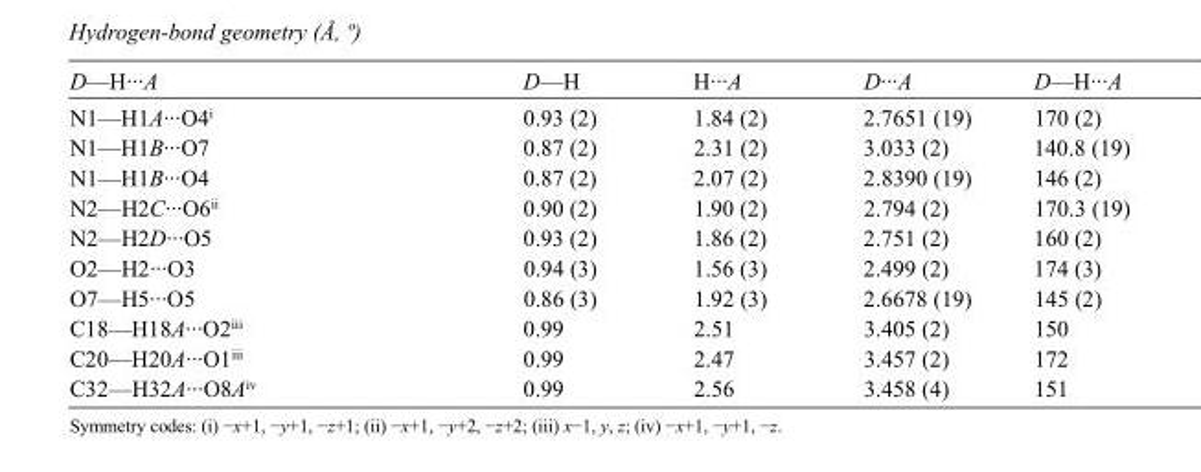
<table><tbody><tr><td>D—H···A</td><td>D—H</td><td>H···A</td><td>D···A</td><td>D—H···A</td></tr><tr><td>N1—H1A···O4<sup>i</sup></td><td>0.93 (2)</td><td>1.84 (2)</td><td>2.7651 (19)</td><td>170 (2)</td></tr><tr><td>N1—H1B···O7</td><td>0.87 (2)</td><td>2.31 (2)</td><td>3.033 (2)</td><td>140.8 (19)</td></tr><tr><td>N1—H1B···O4</td><td>0.87 (2)</td><td>2.07 (2)</td><td>2.8390 (19)</td><td>146 (2)</td></tr><tr><td>N2—H2C···O6<sup>ii</sup></td><td>0.90 (2)</td><td>1.90 (2)</td><td>2.794 (2)</td><td>170.3 (19)</td></tr><tr><td>N2—H2D···O5</td><td>0.93 (2)</td><td>1.86 (2)</td><td>2.751 (2)</td><td>160 (2)</td></tr><tr><td>O2—H2···O3</td><td>0.94 (3)</td><td>1.56 (3)</td><td>2.499 (2)</td><td>174 (3)</td></tr><tr><td>O7—H5···O5</td><td>0.86 (3)</td><td>1.92 (3)</td><td>2.6678 (19)</td><td>145 (2)</td></tr><tr><td>C18—H18A···O2<sup>iii</sup></td><td>0.99</td><td>2.51</td><td>3.405 (2)</td><td>150</td></tr><tr><td>C20—H20A···O1<sup>iii</sup></td><td>0.99</td><td>2.47</td><td>3.457 (2)</td><td>172</td></tr><tr><td>C32—H32A···O8A<sup>iv</sup></td><td>0.99</td><td>2.56</td><td>3.458 (4)</td><td>151</td></tr></tbody></table>